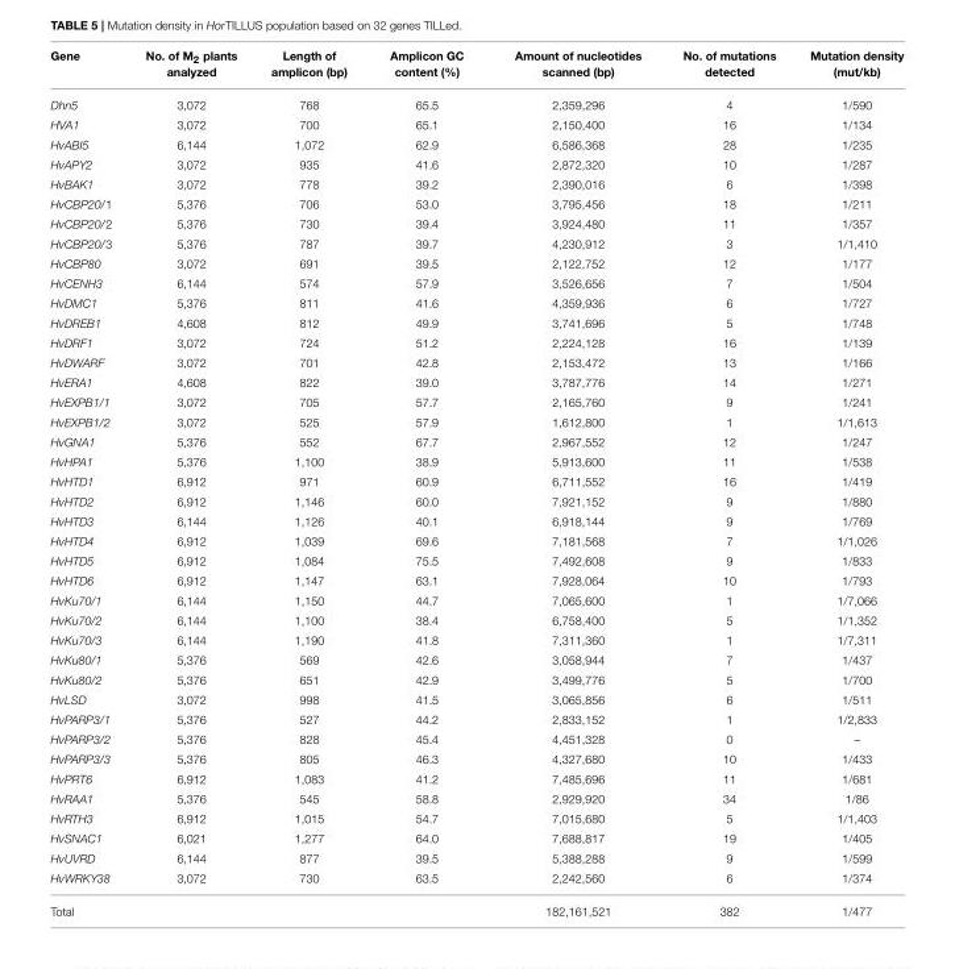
<table><thead><tr><td>Gene</td><td>No. of M<sub>2</sub> plants analyzed</td><td>Length of amplicon (bp)</td><td>Amplicon GC content (%)</td><td>Amount of nucleotides scanned (bp)</td><td>No. of mutations detected</td><td>Mutation density (mut/kb)</td></tr></thead><tbody><tr><td>Dhn5</td><td>3,072</td><td>768</td><td>65.5</td><td>2,359,296</td><td>4</td><td>1/590</td></tr><tr><td>HVA1</td><td>3,072</td><td>700</td><td>65.1</td><td>2,150,400</td><td>16</td><td>1/134</td></tr><tr><td>HvABI5</td><td>6,144</td><td>1,072</td><td>62.9</td><td>6,586,368</td><td>28</td><td>1/235</td></tr><tr><td>HvAPY2</td><td>3,072</td><td>935</td><td>41.6</td><td>2,872,320</td><td>10</td><td>1/287</td></tr><tr><td>HvBAK1</td><td>3,072</td><td>778</td><td>39.2</td><td>2,390,016</td><td>6</td><td>1/398</td></tr><tr><td>HvCBP20/1</td><td>5,376</td><td>706</td><td>53.0</td><td>3,795,456</td><td>18</td><td>1/211</td></tr><tr><td>HvCBP20/2</td><td>5,376</td><td>730</td><td>39.4</td><td>3,924,480</td><td>11</td><td>1/357</td></tr><tr><td>HvCBP20/3</td><td>5,376</td><td>787</td><td>39.7</td><td>4,230,912</td><td>3</td><td>1/1,410</td></tr><tr><td>HvCBP80</td><td>3,072</td><td>691</td><td>39.5</td><td>2,122,752</td><td>12</td><td>1/177</td></tr><tr><td>HvCENH3</td><td>6,144</td><td>574</td><td>57.9</td><td>3,526,656</td><td>7</td><td>1/504</td></tr><tr><td>HvDMC1</td><td>5,376</td><td>811</td><td>41.6</td><td>4,359,936</td><td>6</td><td>1/727</td></tr><tr><td>HvDREB1</td><td>4,608</td><td>812</td><td>49.9</td><td>3,741,696</td><td>5</td><td>1/748</td></tr><tr><td>HvDRF1</td><td>3,072</td><td>724</td><td>51.2</td><td>2,224,128</td><td>16</td><td>1/139</td></tr><tr><td>HvDWARF</td><td>3,072</td><td>701</td><td>42.8</td><td>2,153,472</td><td>13</td><td>1/166</td></tr><tr><td>HvERA1</td><td>4,608</td><td>822</td><td>39.0</td><td>3,787,776</td><td>14</td><td>1/271</td></tr><tr><td>HvEXPB1/1</td><td>3,072</td><td>705</td><td>57.7</td><td>2,165,760</td><td>9</td><td>1/241</td></tr><tr><td>HvEXPB1/2</td><td>3,072</td><td>525</td><td>57.9</td><td>1,612,800</td><td>1</td><td>1/1,613</td></tr><tr><td>HvGNA1</td><td>5,376</td><td>552</td><td>67.7</td><td>2,967,552</td><td>12</td><td>1/247</td></tr><tr><td>HvHPA1</td><td>5,376</td><td>1,100</td><td>38.9</td><td>5,913,600</td><td>11</td><td>1/538</td></tr><tr><td>HvHTD1</td><td>6,912</td><td>971</td><td>60.9</td><td>6,711,552</td><td>16</td><td>1/419</td></tr><tr><td>HvHTD2</td><td>6,912</td><td>1,146</td><td>60.0</td><td>7,921,152</td><td>9</td><td>1/880</td></tr><tr><td>HvHTD3</td><td>6,144</td><td>1,126</td><td>40.1</td><td>6,918,144</td><td>9</td><td>1/769</td></tr><tr><td>HvHTD4</td><td>6,912</td><td>1,039</td><td>69.6</td><td>7,181,568</td><td>7</td><td>1/1,026</td></tr><tr><td>HvHTD5</td><td>6,912</td><td>1,084</td><td>75.5</td><td>7,492,608</td><td>9</td><td>1/833</td></tr><tr><td>HvHTD6</td><td>6,912</td><td>1,147</td><td>63.1</td><td>7,928,064</td><td>10</td><td>1/793</td></tr><tr><td>HvKu70/1</td><td>6,144</td><td>1,150</td><td>44.7</td><td>7,065,600</td><td>1</td><td>1/7,066</td></tr><tr><td>HvKu70/2</td><td>6,144</td><td>1,100</td><td>38.4</td><td>6,758,400</td><td>5</td><td>1/1,352</td></tr><tr><td>HvKu70/3</td><td>6,144</td><td>1,190</td><td>41.8</td><td>7,311,360</td><td>1</td><td>1/7,311</td></tr><tr><td>HvKu80/1</td><td>5,376</td><td>569</td><td>42.6</td><td>3,058,944</td><td>7</td><td>1/437</td></tr><tr><td>HvKu80/2</td><td>5,376</td><td>651</td><td>42.9</td><td>3,499,776</td><td>5</td><td>1/700</td></tr><tr><td>HvLSD</td><td>3,072</td><td>998</td><td>41.5</td><td>3,065,856</td><td>6</td><td>1/511</td></tr><tr><td>HvPARP3/1</td><td>5,376</td><td>527</td><td>44.2</td><td>2,833,152</td><td>1</td><td>1/2,833</td></tr><tr><td>HvPARP3/2</td><td>5,376</td><td>828</td><td>45.4</td><td>4,451,328</td><td>0</td><td>–</td></tr><tr><td>HvPARP3/3</td><td>5,376</td><td>805</td><td>46.3</td><td>4,327,680</td><td>10</td><td>1/433</td></tr><tr><td>HvPRT6</td><td>6,912</td><td>1,083</td><td>41.2</td><td>7,485,696</td><td>11</td><td>1/681</td></tr><tr><td>HvRAA1</td><td>5,376</td><td>545</td><td>58.8</td><td>2,929,920</td><td>34</td><td>1/86</td></tr><tr><td>HvRTH3</td><td>6,912</td><td>1,015</td><td>54.7</td><td>7,015,680</td><td>5</td><td>1/1,403</td></tr><tr><td>HvSNAC1</td><td>6,021</td><td>1,277</td><td>64.0</td><td>7,688,817</td><td>19</td><td>1/405</td></tr><tr><td>HvUVRD</td><td>6,144</td><td>877</td><td>39.5</td><td>5,388,288</td><td>9</td><td>1/599</td></tr><tr><td>HvWRKY38</td><td>3,072</td><td>730</td><td>63.5</td><td>2,242,560</td><td>6</td><td>1/374</td></tr><tr><td>Total</td><td></td><td></td><td></td><td>182,161,521</td><td>382</td><td>1/477</td></tr></tbody></table>